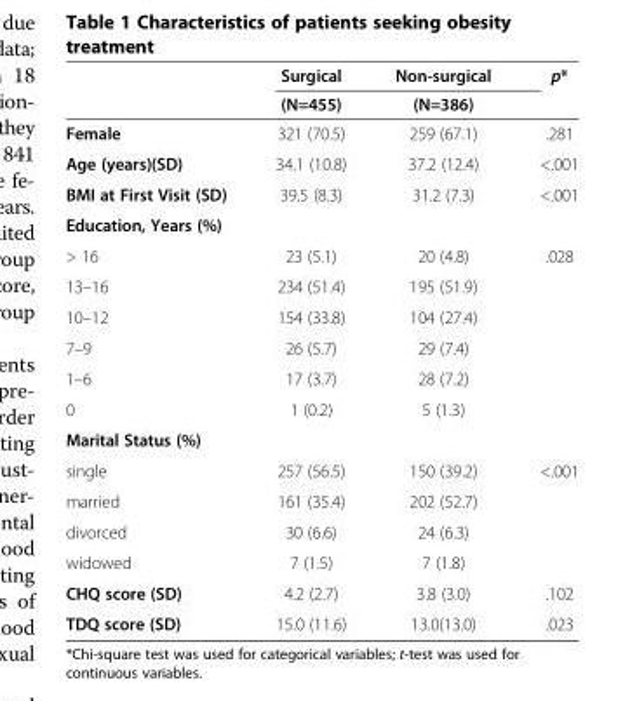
<table><thead><tr><td rowspan="2"></td><td rowspan="2">Surgical (N=455)</td><td rowspan="2">Non-surgical (N=386)</td><td rowspan="2">p*</td></tr><tr></tr></thead><tbody><tr><td>Female</td><td>321 (70.5)</td><td>259 (67.1)</td><td>.281</td></tr><tr><td>Age (years)(SD)</td><td>34.1 (10.8)</td><td>37.2 (12.4)</td><td>&lt;.001</td></tr><tr><td>BMI at First Visit (SD)</td><td>39.5 (8.3)</td><td>31.2 (7.3)</td><td>&lt;.001</td></tr><tr><td colspan="4">Education, Years (%)</td></tr><tr><td>&gt; 16</td><td>23 (5.1)</td><td>20 (4.8)</td><td>.028</td></tr><tr><td>13–16</td><td>234 (51.4)</td><td>195 (51.9)</td><td></td></tr><tr><td>10–12</td><td>154 (33.8)</td><td>104 (27.4)</td><td></td></tr><tr><td>7–9</td><td>26 (5.7)</td><td>29 (7.4)</td><td></td></tr><tr><td>1–6</td><td>17 (3.7)</td><td>28 (7.2)</td><td></td></tr><tr><td>0</td><td>1 (0.2)</td><td>5 (1.3)</td><td></td></tr><tr><td colspan="4">Marital Status (%)</td></tr><tr><td>single</td><td>257 (56.5)</td><td>150 (39.2)</td><td>&lt;.001</td></tr><tr><td>married</td><td>161 (35.4)</td><td>202 (52.7)</td><td></td></tr><tr><td>divorced</td><td>30 (6.6)</td><td>24 (6.3)</td><td></td></tr><tr><td>widowed</td><td>7 (1.5)</td><td>7 (1.8)</td><td></td></tr><tr><td>CHQ score (SD)</td><td>4.2 (2.7)</td><td>3.8 (3.0)</td><td>.102</td></tr><tr><td>TDQ score (SD)</td><td>15.0 (11.6)</td><td>13.0(13.0)</td><td>.023</td></tr></tbody></table>